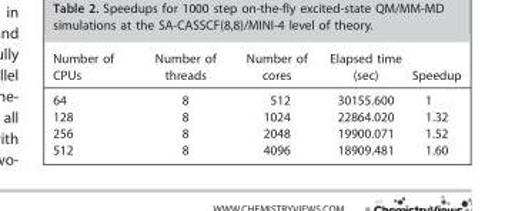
<table><thead><tr><td>Number of CPUs</td><td>Number of threads</td><td>Number of cores</td><td>Elapsed time (sec)</td><td>Speedup</td></tr></thead><tbody><tr><td>64</td><td>8</td><td>512</td><td>30155.600</td><td>1</td></tr><tr><td>128</td><td>8</td><td>1024</td><td>22864.020</td><td>1.32</td></tr><tr><td>256</td><td>8</td><td>2048</td><td>19900.071</td><td>1.52</td></tr><tr><td>512</td><td>8</td><td>4096</td><td>18909.481</td><td>1.60</td></tr></tbody></table>